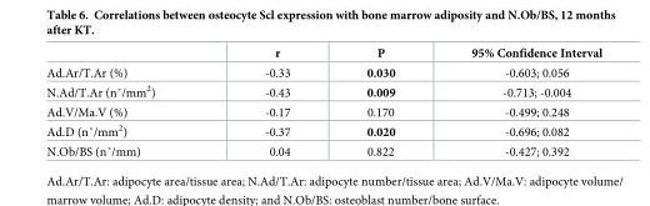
<table><thead><tr><td></td><td>r</td><td>P</td><td>95% Confidence Interval</td></tr></thead><tbody><tr><td>Ad.Ar/T.Ar (%)</td><td>-0.33</td><td>0.030</td><td>-0.603; 0.056</td></tr><tr><td>N.Ad/T.Ar (n˚/mm2)</td><td>-0.43</td><td>0.009</td><td>-0.713; -0.004</td></tr><tr><td>Ad.V/Ma.V (%)</td><td>-0.17</td><td>0.170</td><td>-0.499; 0.248</td></tr><tr><td>Ad.D (n˚/mm2)</td><td>-0.37</td><td>0.020</td><td>-0.696; 0.082</td></tr><tr><td>N.Ob/BS (n˚/mm)</td><td>0.04</td><td>0.822</td><td>-0.427; 0.392</td></tr></tbody></table>